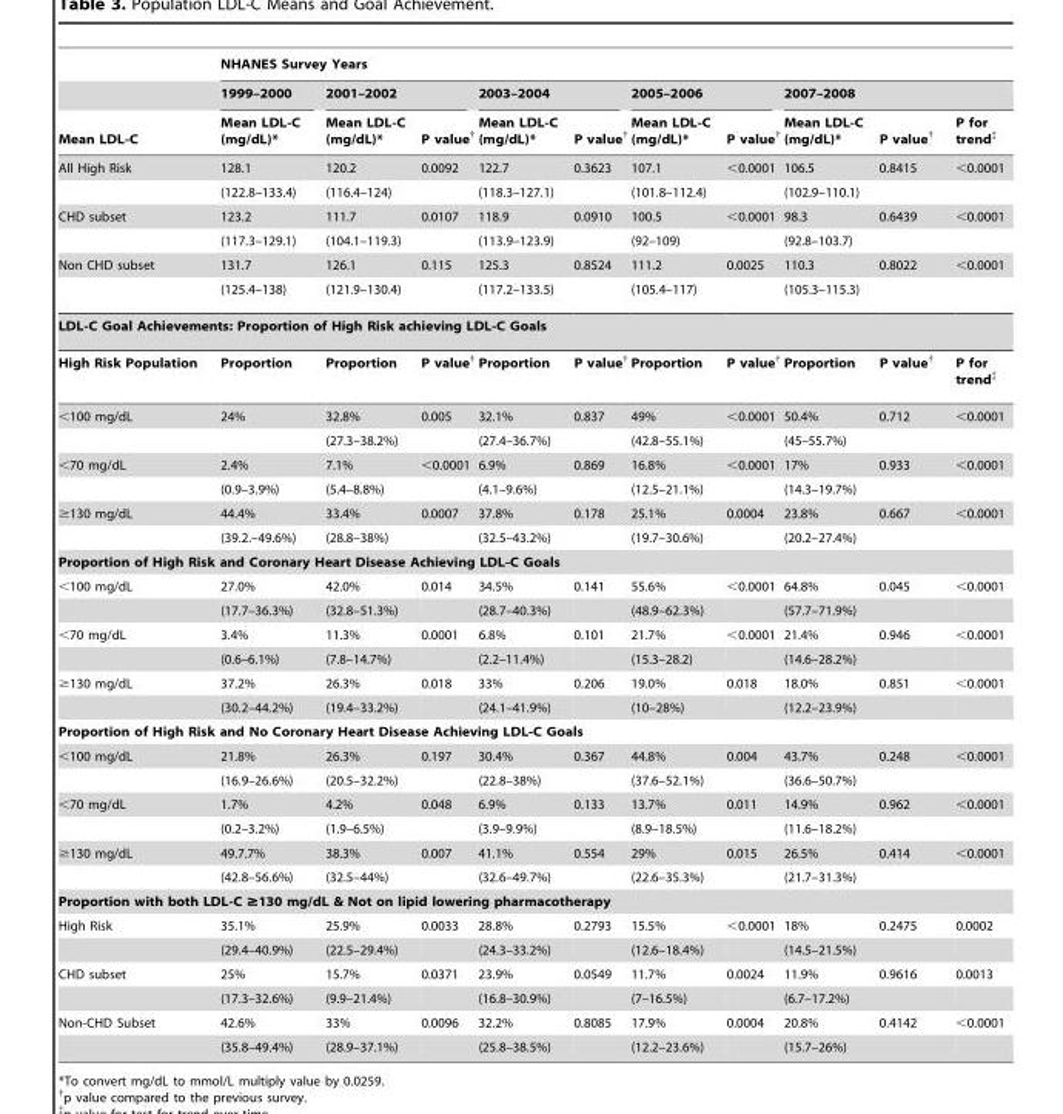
<table><thead><tr><td rowspan="3">Mean LDL-C</td><td colspan="10">NHANES Survey Years</td></tr><tr><td rowspan="2">1999–2000 Mean LDL-C (mg/dL)*</td><td colspan="2">2001–2002</td><td colspan="2">2003–2004</td><td colspan="2">2005–2006</td><td colspan="3">2007–2008</td></tr><tr><td>Mean LDL-C (mg/dL)*</td><td>P value†</td><td>Mean LDL-C (mg/dL)*</td><td>P value†</td><td>Mean LDL-C (mg/dL)*</td><td>P value†</td><td>Mean LDL-C (mg/dL)*</td><td>P value†</td><td>P for trend‡</td></tr></thead><tbody><tr><td rowspan="2">All High Risk</td><td>128.1</td><td>120.2</td><td>0.0092</td><td>122.7</td><td>0.3623</td><td>107.1</td><td>&lt;0.0001</td><td>106.5</td><td>0.8415</td><td>&lt;0.0001</td></tr><tr><td>(122.8–133.4)</td><td>(116.4–124)</td><td></td><td>(118.3–127.1)</td><td></td><td>(101.8–112.4)</td><td></td><td>(102.9–110.1)</td><td></td><td></td></tr><tr><td rowspan="2">CHD subset</td><td>123.2</td><td>111.7</td><td>0.0107</td><td>118.9</td><td>0.0910</td><td>100.5</td><td>&lt;0.0001</td><td>98.3</td><td>0.6439</td><td>&lt;0.0001</td></tr><tr><td>(117.3–129.1)</td><td>(104.1–119.3)</td><td></td><td>(113.9–123.9)</td><td></td><td>(92–109)</td><td></td><td>(92.8–103.7)</td><td></td><td></td></tr><tr><td rowspan="2">Non CHD subset</td><td>131.7</td><td>126.1</td><td>0.115</td><td>125.3</td><td>0.8524</td><td>111.2</td><td>0.0025</td><td>110.3</td><td>0.8022</td><td>&lt;0.0001</td></tr><tr><td>(125.4–138)</td><td>(121.9–130.4)</td><td></td><td>(117.2–133.5)</td><td></td><td>(105.4–117)</td><td></td><td>(105.3–115.3)</td><td></td><td></td></tr><tr><td colspan="11">LDL-C Goal Achievements: Proportion of High Risk achieving LDL-C Goals</td></tr><tr><td>High Risk Population</td><td>Proportion</td><td>Proportion</td><td>P value†</td><td>Proportion</td><td>P value†</td><td>Proportion</td><td>P value†</td><td>Proportion</td><td>P value†</td><td>P for trend‡</td></tr><tr><td rowspan="2">&lt;100 mg/dL</td><td>24%</td><td>32.8%</td><td>0.005</td><td>32.1%</td><td>0.837</td><td>49%</td><td>&lt;0.0001</td><td>50.4%</td><td>0.712</td><td>&lt;0.0001</td></tr><tr><td></td><td>(27.3–38.2%)</td><td></td><td>(27.4–36.7%)</td><td></td><td>(42.8–55.1%)</td><td></td><td>(45–55.7%)</td><td></td><td></td></tr><tr><td rowspan="2">&lt;70 mg/dL</td><td>2.4%</td><td>7.1%</td><td>&lt;0.0001</td><td>6.9%</td><td>0.869</td><td>16.8%</td><td>&lt;0.0001</td><td>17%</td><td>0.933</td><td>&lt;0.0001</td></tr><tr><td>(0.9–3.9%)</td><td>(5.4–8.8%)</td><td></td><td>(4.1–9.6%)</td><td></td><td>(12.5–21.1%)</td><td></td><td>(14.3–19.7%)</td><td></td><td></td></tr><tr><td rowspan="2">≥130 mg/dL</td><td>44.4%</td><td>33.4%</td><td>0.0007</td><td>37.8%</td><td>0.178</td><td>25.1%</td><td>0.0004</td><td>23.8%</td><td>0.667</td><td>&lt;0.0001</td></tr><tr><td>(39.2.–49.6%)</td><td>(28.8–38%)</td><td></td><td>(32.5–43.2%)</td><td></td><td>(19.7–30.6%)</td><td></td><td>(20.2–27.4%)</td><td></td><td></td></tr><tr><td colspan="11">Proportion of High Risk and Coronary Heart Disease Achieving LDL-C Goals</td></tr><tr><td rowspan="2">&lt;100 mg/dL</td><td>27.0%</td><td>42.0%</td><td>0.014</td><td>34.5%</td><td>0.141</td><td>55.6%</td><td>&lt;0.0001</td><td>64.8%</td><td>0.045</td><td>&lt;0.0001</td></tr><tr><td>(17.7–36.3%)</td><td>(32.8–51.3%)</td><td></td><td>(28.7–40.3%)</td><td></td><td>(48.9–62.3%)</td><td></td><td>(57.7–71.9%)</td><td></td><td></td></tr><tr><td rowspan="2">&lt;70 mg/dL</td><td>3.4%</td><td>11.3%</td><td>0.0001</td><td>6.8%</td><td>0.101</td><td>21.7%</td><td>&lt;0.0001</td><td>21.4%</td><td>0.946</td><td>&lt;0.0001</td></tr><tr><td>(0.6–6.1%)</td><td>(7.8–14.7%)</td><td></td><td>(2.2–11.4%)</td><td></td><td>(15.3–28.2)</td><td></td><td>(14.6–28.2%)</td><td></td><td></td></tr><tr><td rowspan="2">≥130 mg/dL</td><td>37.2%</td><td>26.3%</td><td>0.018</td><td>33%</td><td>0.206</td><td>19.0%</td><td>0.018</td><td>18.0%</td><td>0.851</td><td>&lt;0.0001</td></tr><tr><td>(30.2–44.2%)</td><td>(19.4–33.2%)</td><td></td><td>(24.1–41.9%)</td><td></td><td>(10–28%)</td><td></td><td>(12.2–23.9%)</td><td></td><td></td></tr><tr><td colspan="11">Proportion of High Risk and No Coronary Heart Disease Achieving LDL-C Goals</td></tr><tr><td rowspan="2">&lt;100 mg/dL</td><td>21.8%</td><td>26.3%</td><td>0.197</td><td>30.4%</td><td>0.367</td><td>44.8%</td><td>0.004</td><td>43.7%</td><td>0.248</td><td>&lt;0.0001</td></tr><tr><td>(16.9–26.6%)</td><td>(20.5–32.2%)</td><td></td><td>(22.8–38%)</td><td></td><td>(37.6–52.1%)</td><td></td><td>(36.6–50.7%)</td><td></td><td></td></tr><tr><td rowspan="2">&lt;70 mg/dL</td><td>1.7%</td><td>4.2%</td><td>0.048</td><td>6.9%</td><td>0.133</td><td>13.7%</td><td>0.011</td><td>14.9%</td><td>0.962</td><td>&lt;0.0001</td></tr><tr><td>(0.2–3.2%)</td><td>(1.9–6.5%)</td><td></td><td>(3.9–9.9%)</td><td></td><td>(8.9–18.5%)</td><td></td><td>(11.6–18.2%)</td><td></td><td></td></tr><tr><td rowspan="2">≥130 mg/dL</td><td>49.7.7%</td><td>38.3%</td><td>0.007</td><td>41.1%</td><td>0.554</td><td>29%</td><td>0.015</td><td>26.5%</td><td>0.414</td><td>&lt;0.0001</td></tr><tr><td>(42.8–56.6%)</td><td>(32.5–44%)</td><td></td><td>(32.6–49.7%)</td><td></td><td>(22.6–35.3%)</td><td></td><td>(21.7–31.3%)</td><td></td><td></td></tr><tr><td colspan="11">Proportion with both LDL-C ≥130 mg/dL &amp; Not on lipid lowering pharmacotherapy</td></tr><tr><td rowspan="2">High Risk</td><td>35.1%</td><td>25.9%</td><td>0.0033</td><td>28.8%</td><td>0.2793</td><td>15.5%</td><td>&lt;0.0001</td><td>18%</td><td>0.2475</td><td>0.0002</td></tr><tr><td>(29.4–40.9%)</td><td>(22.5–29.4%)</td><td></td><td>(24.3–33.2%)</td><td></td><td>(12.6–18.4%)</td><td></td><td>(14.5–21.5%)</td><td></td><td></td></tr><tr><td rowspan="2">CHD subset</td><td>25%</td><td>15.7%</td><td>0.0371</td><td>23.9%</td><td>0.0549</td><td>11.7%</td><td>0.0024</td><td>11.9%</td><td>0.9616</td><td>0.0013</td></tr><tr><td>(17.3–32.6%)</td><td>(9.9–21.4%)</td><td></td><td>(16.8–30.9%)</td><td></td><td>(7–16.5%)</td><td></td><td>(6.7–17.2%)</td><td></td><td></td></tr><tr><td rowspan="2">Non-CHD Subset</td><td>42.6%</td><td>33%</td><td>0.0096</td><td>32.2%</td><td>0.8085</td><td>17.9%</td><td>0.0004</td><td>20.8%</td><td>0.4142</td><td>&lt;0.0001</td></tr><tr><td>(35.8–49.4%)</td><td>(28.9–37.1%)</td><td></td><td>(25.8–38.5%)</td><td></td><td>(12.2–23.6%)</td><td></td><td>(15.7–26%)</td><td></td><td></td></tr></tbody></table>